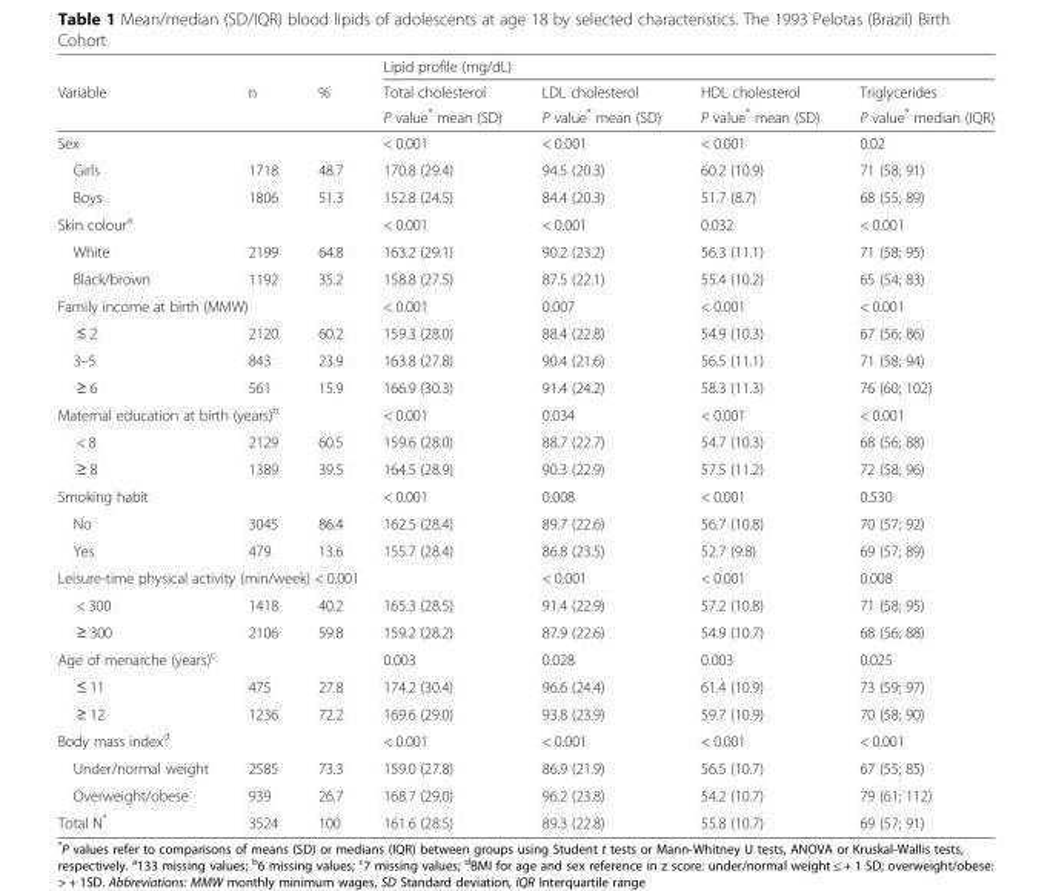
<table><thead><tr><td rowspan="3">Variable</td><td rowspan="3">n</td><td rowspan="3">%</td><td colspan="4">Lipid profile (mg/dL)</td></tr><tr><td rowspan="2">Total cholesterol P value* mean (SD)</td><td rowspan="2">LDL cholesterol P value* mean (SD)</td><td rowspan="2">HDL cholesterol P value* mean (SD)</td><td rowspan="2">Triglycerides P value* median (IQR)</td></tr><tr></tr></thead><tbody><tr><td>Sex</td><td></td><td></td><td>&lt; 0.001</td><td>&lt; 0.001</td><td>&lt; 0.001</td><td>0.02</td></tr><tr><td>Girls</td><td>1718</td><td>48.7</td><td>170.8 (29.4)</td><td>94.5 (20.3)</td><td>60.2 (10.9)</td><td>71 (58; 91)</td></tr><tr><td>Boys</td><td>1806</td><td>51.3</td><td>152.8 (24.5)</td><td>84.4 (20.3)</td><td>51.7 (8.7)</td><td>68 (55; 89)</td></tr><tr><td>Skin colour<sup>a</sup></td><td></td><td></td><td>&lt; 0.001</td><td>&lt; 0.001</td><td>0.032</td><td>&lt; 0.001</td></tr><tr><td>White</td><td>2199</td><td>64.8</td><td>163.2 (29.1)</td><td>90.2 (23.2)</td><td>56.3 (11.1)</td><td>71 (58; 95)</td></tr><tr><td>Black/brown</td><td>1192</td><td>35.2</td><td>158.8 (27.5)</td><td>87.5 (22.1)</td><td>55.4 (10.2)</td><td>65 (54; 83)</td></tr><tr><td colspan="3">Family income at birth (MMW)</td><td>&lt; 0.001</td><td>0.007</td><td>&lt; 0.001</td><td>&lt; 0.001</td></tr><tr><td>≤ 2</td><td>2120</td><td>60.2</td><td>159.3 (28.0)</td><td>88.4 (22.8)</td><td>54.9 (10.3)</td><td>67 (56; 86)</td></tr><tr><td>3–5</td><td>843</td><td>23.9</td><td>163.8 (27.8)</td><td>90.4 (21.6)</td><td>56.5 (11.1)</td><td>71 (58; 94)</td></tr><tr><td>≥ 6</td><td>561</td><td>15.9</td><td>166.9 (30.3)</td><td>91.4 (24.2)</td><td>58.3 (11.3)</td><td>76 (60; 102)</td></tr><tr><td colspan="3">Maternal education at birth (years)<sup>b</sup></td><td>&lt; 0.001</td><td>0.034</td><td>&lt; 0.001</td><td>&lt; 0.001</td></tr><tr><td>&lt; 8</td><td>2129</td><td>60.5</td><td>159.6 (28.0)</td><td>88.7 (22.7)</td><td>54.7 (10.3)</td><td>68 (56; 88)</td></tr><tr><td>≥ 8</td><td>1389</td><td>39.5</td><td>164.5 (28.9)</td><td>90.3 (22.9)</td><td>57.5 (11.2)</td><td>72 (58; 96)</td></tr><tr><td>Smoking habit</td><td></td><td></td><td>&lt; 0.001</td><td>0.008</td><td>&lt; 0.001</td><td>0.530</td></tr><tr><td>No</td><td>3045</td><td>86.4</td><td>162.5 (28.4)</td><td>89.7 (22.6)</td><td>56.7 (10.8)</td><td>70 (57; 92)</td></tr><tr><td>Yes</td><td>479</td><td>13.6</td><td>155.7 (28.4)</td><td>86.8 (23.5)</td><td>52.7 (9.8)</td><td>69 (57; 89)</td></tr><tr><td colspan="4">Leisure-time physical activity (min/week) &lt; 0.001</td><td>&lt; 0.001</td><td>&lt; 0.001</td><td>0.008</td></tr><tr><td>&lt; 300</td><td>1418</td><td>40.2</td><td>165.3 (28.5)</td><td>91.4 (22.9)</td><td>57.2 (10.8)</td><td>71 (58; 95)</td></tr><tr><td>≥ 300</td><td>2106</td><td>59.8</td><td>159.2 (28.2)</td><td>87.9 (22.6)</td><td>54.9 (10.7)</td><td>68 (56; 88)</td></tr><tr><td colspan="3">Age of menarche (years)<sup>c</sup></td><td>0.003</td><td>0.028</td><td>0.003</td><td>0.025</td></tr><tr><td>≤ 11</td><td>475</td><td>27.8</td><td>174.2 (30.4)</td><td>96.6 (24.4)</td><td>61.4 (10.9)</td><td>73 (59; 97)</td></tr><tr><td>≥ 12</td><td>1236</td><td>72.2</td><td>169.6 (29.0)</td><td>93.8 (23.9)</td><td>59.7 (10.9)</td><td>70 (58; 90)</td></tr><tr><td>Body mass index<sup>d</sup></td><td></td><td></td><td>&lt; 0.001</td><td>&lt; 0.001</td><td>&lt; 0.001</td><td>&lt; 0.001</td></tr><tr><td>Under/normal weight</td><td>2585</td><td>73.3</td><td>159.0 (27.8)</td><td>86.9 (21.9)</td><td>56.5 (10.7)</td><td>67 (55; 85)</td></tr><tr><td>Overweight/obese</td><td>939</td><td>26.7</td><td>168.7 (29,0)</td><td>96.2 (23.8)</td><td>54.2 (10.7)</td><td>79 (61; 112)</td></tr><tr><td>Total N*</td><td>3524</td><td>100</td><td>161.6 (28.5)</td><td>89.3 (22.8)</td><td>55.8 (10.7)</td><td>69 (57; 91)</td></tr></tbody></table>